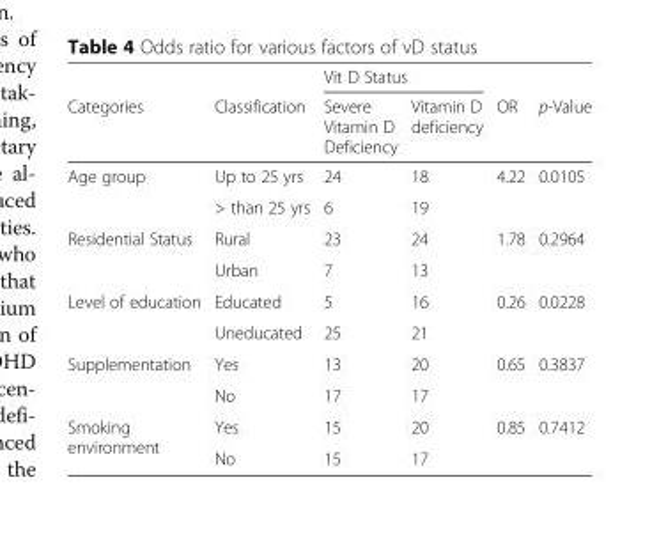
<table><thead><tr><td rowspan="2">Categories</td><td rowspan="2">Classification</td><td colspan="2">Vit D Status</td><td rowspan="2">OR</td><td rowspan="2">p-Value</td></tr><tr><td>Severe Vitamin D Deficiency</td><td>Vitamin D deficiency</td></tr></thead><tbody><tr><td rowspan="2">Age group</td><td>Up to 25 yrs</td><td>24</td><td>18</td><td rowspan="2">4.22</td><td rowspan="2">0.0105</td></tr><tr><td>&gt; than 25 yrs</td><td>6</td><td>19</td></tr><tr><td rowspan="2">Residential Status</td><td>Rural</td><td>23</td><td>24</td><td rowspan="2">1.78</td><td rowspan="2">0.2964</td></tr><tr><td>Urban</td><td>7</td><td>13</td></tr><tr><td rowspan="2">Level of education</td><td>Educated</td><td>5</td><td>16</td><td rowspan="2">0.26</td><td rowspan="2">0.0228</td></tr><tr><td>Uneducated</td><td>25</td><td>21</td></tr><tr><td rowspan="2">Supplementation</td><td>Yes</td><td>13</td><td>20</td><td rowspan="2">0.65</td><td rowspan="2">0.3837</td></tr><tr><td>No</td><td>17</td><td>17</td></tr><tr><td rowspan="2">Smoking environment</td><td>Yes</td><td>15</td><td>20</td><td rowspan="2">0.85</td><td rowspan="2">0.7412</td></tr><tr><td>No</td><td>15</td><td>17</td></tr></tbody></table>